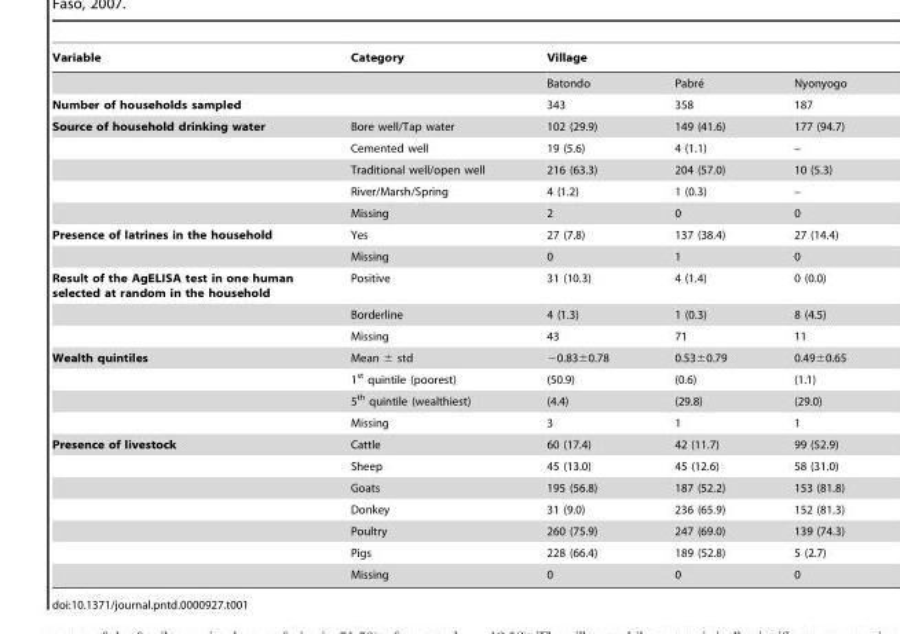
<table><thead><tr><td rowspan="2">Variable</td><td rowspan="2">Category</td><td colspan="3">Village</td></tr><tr><td>Batondo</td><td>Pabre´</td><td>Nyonyogo</td></tr></thead><tbody><tr><td>Number of households sampled</td><td></td><td>343</td><td>358</td><td>187</td></tr><tr><td rowspan="5">Source of household drinking water</td><td>Bore well/Tap water</td><td>102 (29.9)</td><td>149 (41.6)</td><td>177 (94.7)</td></tr><tr><td>Cemented well</td><td>19 (5.6)</td><td>4 (1.1)</td><td>–</td></tr><tr><td>Traditional well/open well</td><td>216 (63.3)</td><td>204 (57.0)</td><td>10 (5.3)</td></tr><tr><td>River/Marsh/Spring</td><td>4 (1.2)</td><td>1 (0.3)</td><td>–</td></tr><tr><td>Missing</td><td>2</td><td>0</td><td>0</td></tr><tr><td rowspan="2">Presence of latrines in the household</td><td>Yes</td><td>27 (7.8)</td><td>137 (38.4)</td><td>27 (14.4)</td></tr><tr><td>Missing</td><td>0</td><td>1</td><td>0</td></tr><tr><td rowspan="3">Result of the AgELISA test in one human selected at random in the household</td><td>Positive</td><td>31 (10.3)</td><td>4 (1.4)</td><td>0 (0.0)</td></tr><tr><td>Borderline</td><td>4 (1.3)</td><td>1 (0.3)</td><td>8 (4.5)</td></tr><tr><td>Missing</td><td>43</td><td>71</td><td>11</td></tr><tr><td rowspan="4">Wealth quintiles</td><td>Mean ± std</td><td>−0.83±0.78</td><td>0.53±0.79</td><td>0.49±0.65</td></tr><tr><td>1<sup>st</sup> quintile (poorest)</td><td>(50.9)</td><td>(0.6)</td><td>(1.1)</td></tr><tr><td>5<sup>th</sup> quintile (wealthiest)</td><td>(4.4)</td><td>(29.8)</td><td>(29.0)</td></tr><tr><td>Missing</td><td>3</td><td>1</td><td>1</td></tr><tr><td rowspan="7">Presence of livestock</td><td>Cattle</td><td>60 (17.4)</td><td>42 (11.7)</td><td>99 (52.9)</td></tr><tr><td>Sheep</td><td>45 (13.0)</td><td>45 (12.6)</td><td>58 (31.0)</td></tr><tr><td>Goats</td><td>195 (56.8)</td><td>187 (52.2)</td><td>153 (81.8)</td></tr><tr><td>Donkey</td><td>31 (9.0)</td><td>236 (65.9)</td><td>152 (81.3)</td></tr><tr><td>Poultry</td><td>260 (75.9)</td><td>247 (69.0)</td><td>139 (74.3)</td></tr><tr><td>Pigs</td><td>228 (66.4)</td><td>189 (52.8)</td><td>5 (2.7)</td></tr><tr><td>Missing</td><td>0</td><td>0</td><td>0</td></tr></tbody></table>